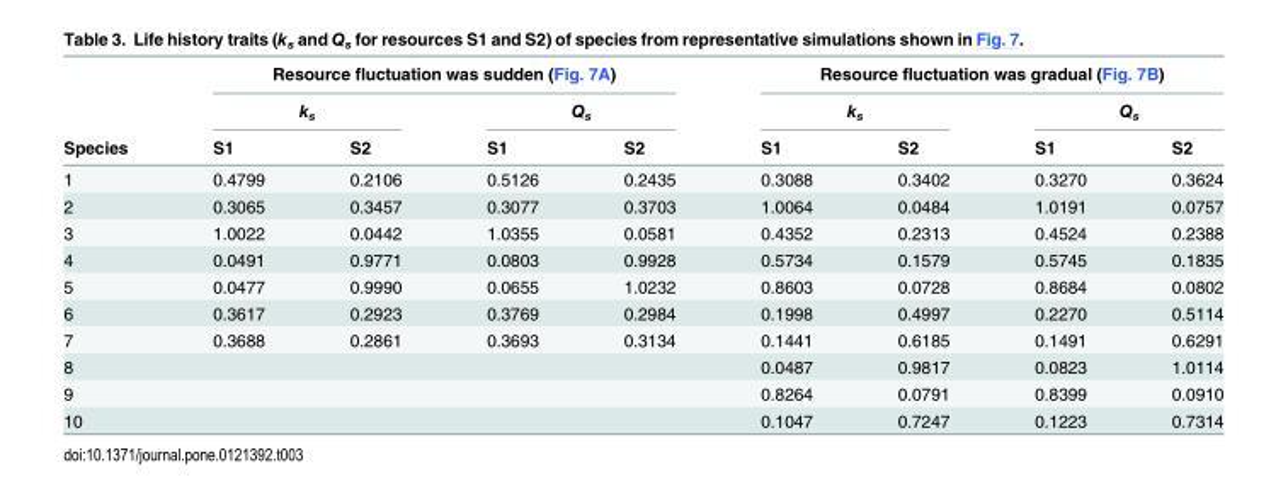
<table><thead><tr><td rowspan="3">Species</td><td colspan="4">Resource fluctuation was sudden (Fig. 7A)</td><td colspan="4">Resource fluctuation was gradual (Fig. 7B)</td></tr><tr><td colspan="2">k<sub>s</sub></td><td colspan="2">Q<sub>s</sub></td><td colspan="2">k<sub>s</sub></td><td colspan="2">Q<sub>s</sub></td></tr><tr><td>S1</td><td>S2</td><td>S1</td><td>S2</td><td>S1</td><td>S2</td><td>S1</td><td>S2</td></tr></thead><tbody><tr><td>1</td><td>0.4799</td><td>0.2106</td><td>0.5126</td><td>0.2435</td><td>0.3088</td><td>0.3402</td><td>0.3270</td><td>0.3624</td></tr><tr><td>2</td><td>0.3065</td><td>0.3457</td><td>0.3077</td><td>0.3703</td><td>1.0064</td><td>0.0484</td><td>1.0191</td><td>0.0757</td></tr><tr><td>3</td><td>1.0022</td><td>0.0442</td><td>1.0355</td><td>0.0581</td><td>0.4352</td><td>0.2313</td><td>0.4524</td><td>0.2388</td></tr><tr><td>4</td><td>0.0491</td><td>0.9771</td><td>0.0803</td><td>0.9928</td><td>0.5734</td><td>0.1579</td><td>0.5745</td><td>0.1835</td></tr><tr><td>5</td><td>0.0477</td><td>0.9990</td><td>0.0655</td><td>1.0232</td><td>0.8603</td><td>0.0728</td><td>0.8684</td><td>0.0802</td></tr><tr><td>6</td><td>0.3617</td><td>0.2923</td><td>0.3769</td><td>0.2984</td><td>0.1998</td><td>0.4997</td><td>0.2270</td><td>0.5114</td></tr><tr><td>7</td><td>0.3688</td><td>0.2861</td><td>0.3693</td><td>0.3134</td><td>0.1441</td><td>0.6185</td><td>0.1491</td><td>0.6291</td></tr><tr><td>8</td><td></td><td></td><td></td><td></td><td>0.0487</td><td>0.9817</td><td>0.0823</td><td>1.0114</td></tr><tr><td>9</td><td></td><td></td><td></td><td></td><td>0.8264</td><td>0.0791</td><td>0.8399</td><td>0.0910</td></tr><tr><td>10</td><td></td><td></td><td></td><td></td><td>0.1047</td><td>0.7247</td><td>0.1223</td><td>0.7314</td></tr></tbody></table>